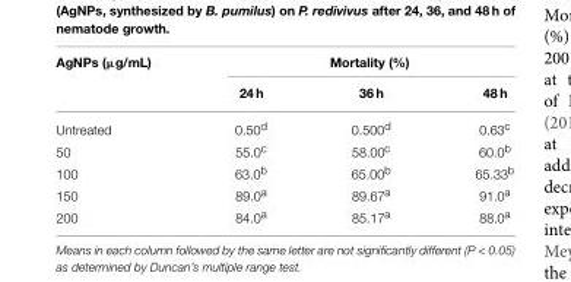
<table><thead><tr><td rowspan="2">AgNPs (µg/mL)</td><td colspan="3">Mortality (%)</td></tr><tr><td>24 h</td><td>36 h</td><td>48 h</td></tr></thead><tbody><tr><td>Untreated</td><td>0.50<sup>d</sup></td><td>0.500<sup>d</sup></td><td>0.63<sup>c</sup></td></tr><tr><td>50</td><td>55.0<sup>c</sup></td><td>58.00<sup>c</sup></td><td>60.0<sup>b</sup></td></tr><tr><td>100</td><td>63.0<sup>b</sup></td><td>65.00<sup>b</sup></td><td>65.33<sup>b</sup></td></tr><tr><td>150</td><td>89.0<sup>a</sup></td><td>89.67<sup>a</sup></td><td>91.0<sup>a</sup></td></tr><tr><td>200</td><td>84.0<sup>a</sup></td><td>85.17<sup>a</sup></td><td>88.0<sup>a</sup></td></tr></tbody></table>